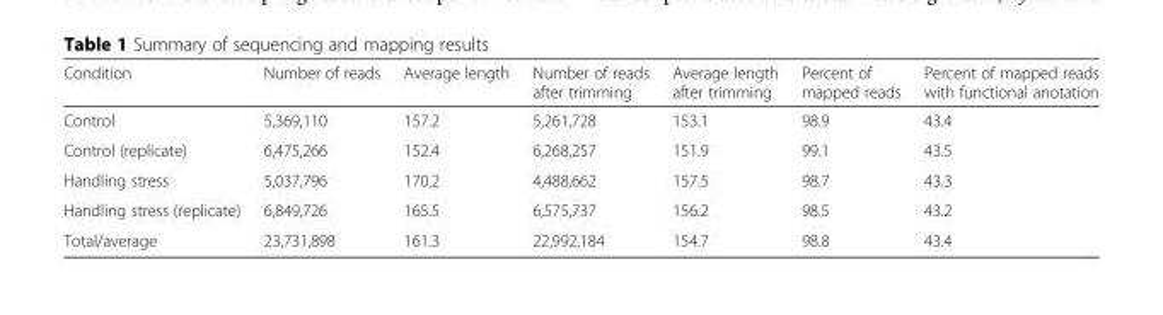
<table><thead><tr><td>Condition</td><td>Number of reads</td><td>Average length</td><td>Number of reads after trimming</td><td>Average length after trimming</td><td>Percent of mapped reads</td><td>Percent of mapped reads with functional anotation</td></tr></thead><tbody><tr><td>Control</td><td>5,369,110</td><td>157.2</td><td>5,261,728</td><td>153.1</td><td>98.9</td><td>43.4</td></tr><tr><td>Control (replicate)</td><td>6,475,266</td><td>152.4</td><td>6,268,257</td><td>151.9</td><td>99.1</td><td>43.5</td></tr><tr><td>Handling stress</td><td>5,037,796</td><td>170.2</td><td>4,488,662</td><td>157.5</td><td>98.7</td><td>43.3</td></tr><tr><td>Handling stress (replicate)</td><td>6,849,726</td><td>165.5</td><td>6,575,737</td><td>156.2</td><td>98.5</td><td>43.2</td></tr><tr><td>Total/average</td><td>23,731,898</td><td>161.3</td><td>22,992,184</td><td>154.7</td><td>98.8</td><td>43.4</td></tr></tbody></table>